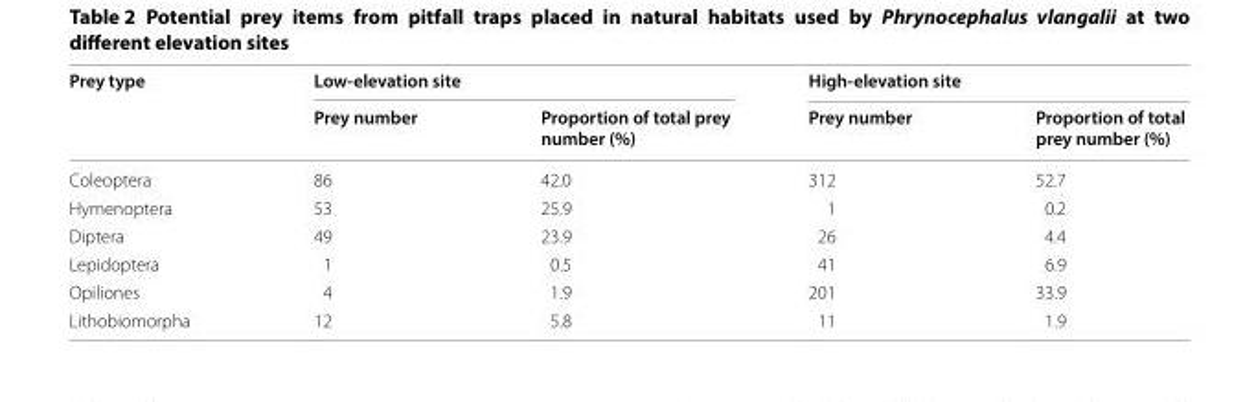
<table><thead><tr><td rowspan="2">Prey type</td><td colspan="2">Low-elevation site</td><td colspan="2">High-elevation site</td></tr><tr><td>Prey number</td><td>Proportion of total prey number (%)</td><td>Prey number</td><td>Proportion of total prey number (%)</td></tr></thead><tbody><tr><td>Coleoptera</td><td>86</td><td>42.0</td><td>312</td><td>52.7</td></tr><tr><td>Hymenoptera</td><td>53</td><td>25.9</td><td>1</td><td>0.2</td></tr><tr><td>Diptera</td><td>49</td><td>23.9</td><td>26</td><td>4.4</td></tr><tr><td>Lepidoptera</td><td>1</td><td>0.5</td><td>41</td><td>6.9</td></tr><tr><td>Opiliones</td><td>4</td><td>1.9</td><td>201</td><td>33.9</td></tr><tr><td>Lithobiomorpha</td><td>12</td><td>5.8</td><td>11</td><td>1.9</td></tr></tbody></table>